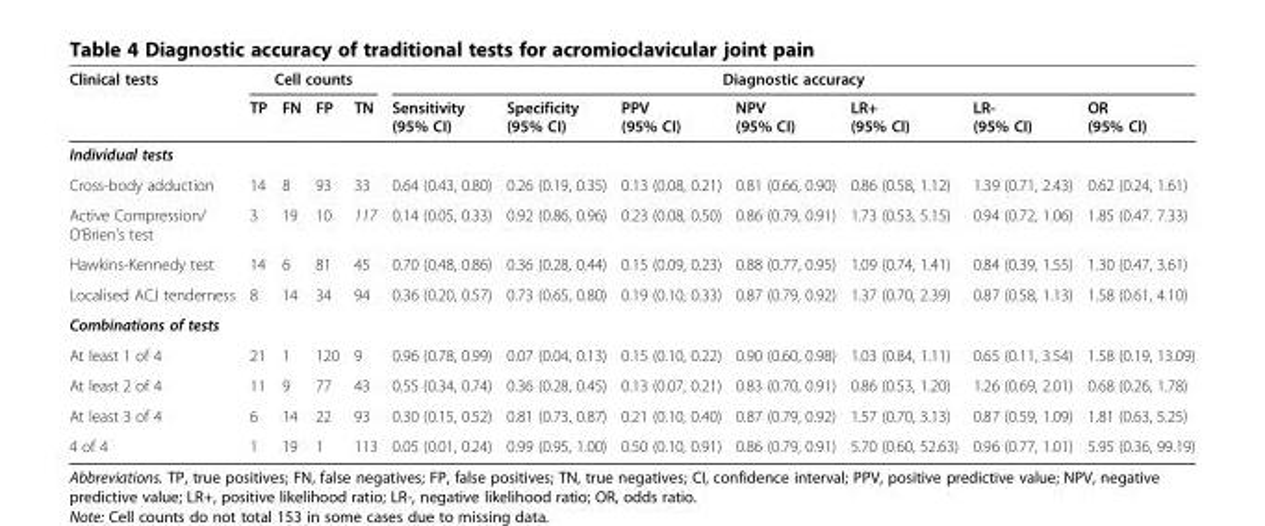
<table><thead><tr><td rowspan="2">Clinical tests</td><td colspan="4">Cell counts</td><td colspan="7">Diagnostic accuracy</td></tr><tr><td>TP</td><td>FN</td><td>FP</td><td>TN</td><td>Sensitivity (95% CI)</td><td>Specificity (95% CI)</td><td>PPV (95% CI)</td><td>NPV (95% CI)</td><td>LR+ (95% CI)</td><td>LR- (95% CI)</td><td>OR (95% CI)</td></tr></thead><tbody><tr><td colspan="12">Individual tests</td></tr><tr><td>Cross-body adduction</td><td>14</td><td>8</td><td>93</td><td>33</td><td>0.64 (0.43, 0.80)</td><td>0.26 (0.19, 0.35)</td><td>0.13 (0.08, 0.21)</td><td>0.81 (0.66, 0.90)</td><td>0.86 (0.58, 1.12)</td><td>1.39 (0.71, 2.43)</td><td>0.62 (0.24, 1.61)</td></tr><tr><td>Active Compression/ O’Brien’s test</td><td>3</td><td>19</td><td>10</td><td>117</td><td>0.14 (0.05, 0.33)</td><td>0.92 (0.86, 0.96)</td><td>0.23 (0.08, 0.50)</td><td>0.86 (0.79, 0.91)</td><td>1.73 (0.53, 5.15)</td><td>0.94 (0.72, 1.06)</td><td>1.85 (0.47. 7.33)</td></tr><tr><td>Hawkins-Kennedy test</td><td>14</td><td>6</td><td>81</td><td>45</td><td>0.70 (0.48, 0.86)</td><td>0.36 (0.28, 0.44)</td><td>0.15 (0.09, 0.23)</td><td>0.88 (0.77, 0.95)</td><td>1.09 (0.74, 1.41)</td><td>0.84 (0.39, 1.55)</td><td>1.30 (0.47, 3.61)</td></tr><tr><td>Localised ACJ tenderness</td><td>8</td><td>14</td><td>34</td><td>94</td><td>0.36 (0.20, 0.57)</td><td>0.73 (0.65, 0.80)</td><td>0.19 (0.10, 0.33)</td><td>0.87 (0.79, 0.92)</td><td>1.37 (0.70, 2.39)</td><td>0.87 (0.58, 1.13)</td><td>1.58 (0.61, 4.10)</td></tr><tr><td colspan="12">Combinations of tests</td></tr><tr><td>At least 1 of 4</td><td>21</td><td>1</td><td>120</td><td>9</td><td>0.96 (0.78, 0.99)</td><td>0.07 (0.04, 0.13)</td><td>0.15 (0.10, 0.22)</td><td>0.90 (0.60, 0.98)</td><td>1.03 (0.84, 1.11)</td><td>0.65 (0.11, 3.54)</td><td>1.58 (0.19, 13.09)</td></tr><tr><td>At least 2 of 4</td><td>11</td><td>9</td><td>77</td><td>43</td><td>0.55 (0.34, 0.74)</td><td>0.36 (0.28, 0.45)</td><td>0.13 (0.07, 0.21)</td><td>0.83 (0.70, 0.91)</td><td>0.86 (0.53, 1.20)</td><td>1.26 (0.69, 2.01)</td><td>0.68 (0.26, 1.78)</td></tr><tr><td>At least 3 of 4</td><td>6</td><td>14</td><td>22</td><td>93</td><td>0.30 (0.15, 0.52)</td><td>0.81 (0.73, 0.87)</td><td>0.21 (0.10, 0.40)</td><td>0.87 (0.79, 0.92)</td><td>1.57 (0.70, 3.13)</td><td>0.87 (0.59, 1.09)</td><td>1.81 (0.63, 5.25)</td></tr><tr><td>4 of 4</td><td>1</td><td>19</td><td>1</td><td>113</td><td>0.05 (0.01, 0.24)</td><td>0.99 (0.95, 1.00)</td><td>0.50 (0.10, 0.91)</td><td>0.86 (0.79, 0.91)</td><td>5.70 (0.60, 52.63)</td><td>0.96 (0.77, 1.01)</td><td>5.95 (0.36, 99.19)</td></tr></tbody></table>